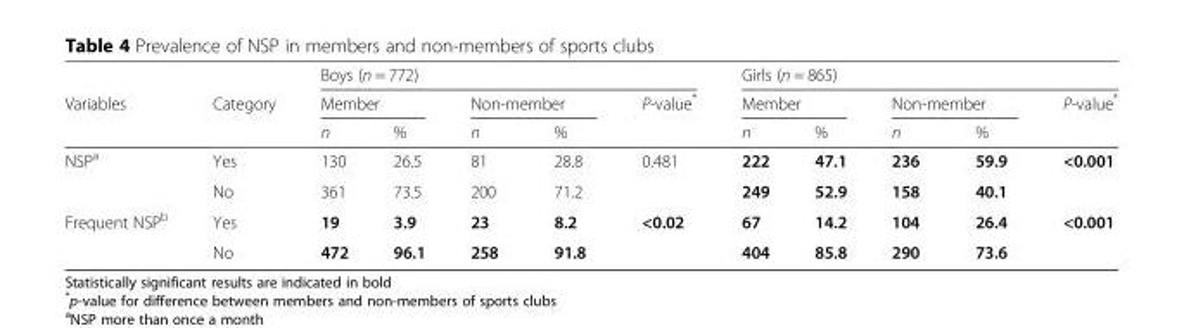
<table><thead><tr><td rowspan="3">Variables</td><td rowspan="3">Category</td><td colspan="5">Boys (n = 772)</td><td colspan="5">Girls (n = 865)</td></tr><tr><td colspan="2">Member</td><td colspan="2">Non-member</td><td rowspan="2">P-value*</td><td colspan="2">Member</td><td colspan="2">Non-member</td><td rowspan="2">P-value*</td></tr><tr><td>n</td><td>%</td><td>n</td><td>%</td><td>n</td><td>%</td><td>n</td><td>%</td></tr></thead><tbody><tr><td rowspan="2">NSP<sup>a</sup></td><td>Yes</td><td>130</td><td>26.5</td><td>81</td><td>28.8</td><td>0.481</td><td>222</td><td>47.1</td><td>236</td><td>59.9</td><td>&lt;0.001</td></tr><tr><td>No</td><td>361</td><td>73.5</td><td>200</td><td>71.2</td><td></td><td>249</td><td>52.9</td><td>158</td><td>40.1</td><td></td></tr><tr><td rowspan="2">Frequent NSP<sup>b</sup></td><td>Yes</td><td>19</td><td>3.9</td><td>23</td><td>8.2</td><td>&lt;0.02</td><td>67</td><td>14.2</td><td>104</td><td>26.4</td><td>&lt;0.001</td></tr><tr><td>No</td><td>472</td><td>96.1</td><td>258</td><td>91.8</td><td></td><td>404</td><td>85.8</td><td>290</td><td>73.6</td><td></td></tr></tbody></table>